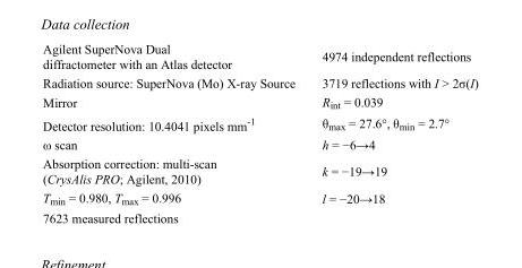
<table><tbody><tr><td>Agilent SuperNova Dual diffractometer with an Atlas detector</td><td>4974 independent reflections</td></tr><tr><td>Radiation source: SuperNova (Mo) X-ray Source</td><td>3719 reflections with I &gt; 2σ(I)</td></tr><tr><td>Mirror</td><td>R<sub>int</sub> = 0.039</td></tr><tr><td>Detector resolution: 10.4041 pixels mm<sup>-1</sup></td><td>θ<sub>max</sub> = 27.6°, θ<sub>min</sub> = 2.7°</td></tr><tr><td>ω scan</td><td>h = −6→4</td></tr><tr><td>Absorption correction: multi-scan (CrysAlis PRO; Agilent, 2010)</td><td>k = −19→19</td></tr><tr><td>T<sub>min</sub> = 0.980, T<sub>max</sub> = 0.996</td><td>l = −20→18</td></tr><tr><td>7623 measured reflections</td><td></td></tr></tbody></table>